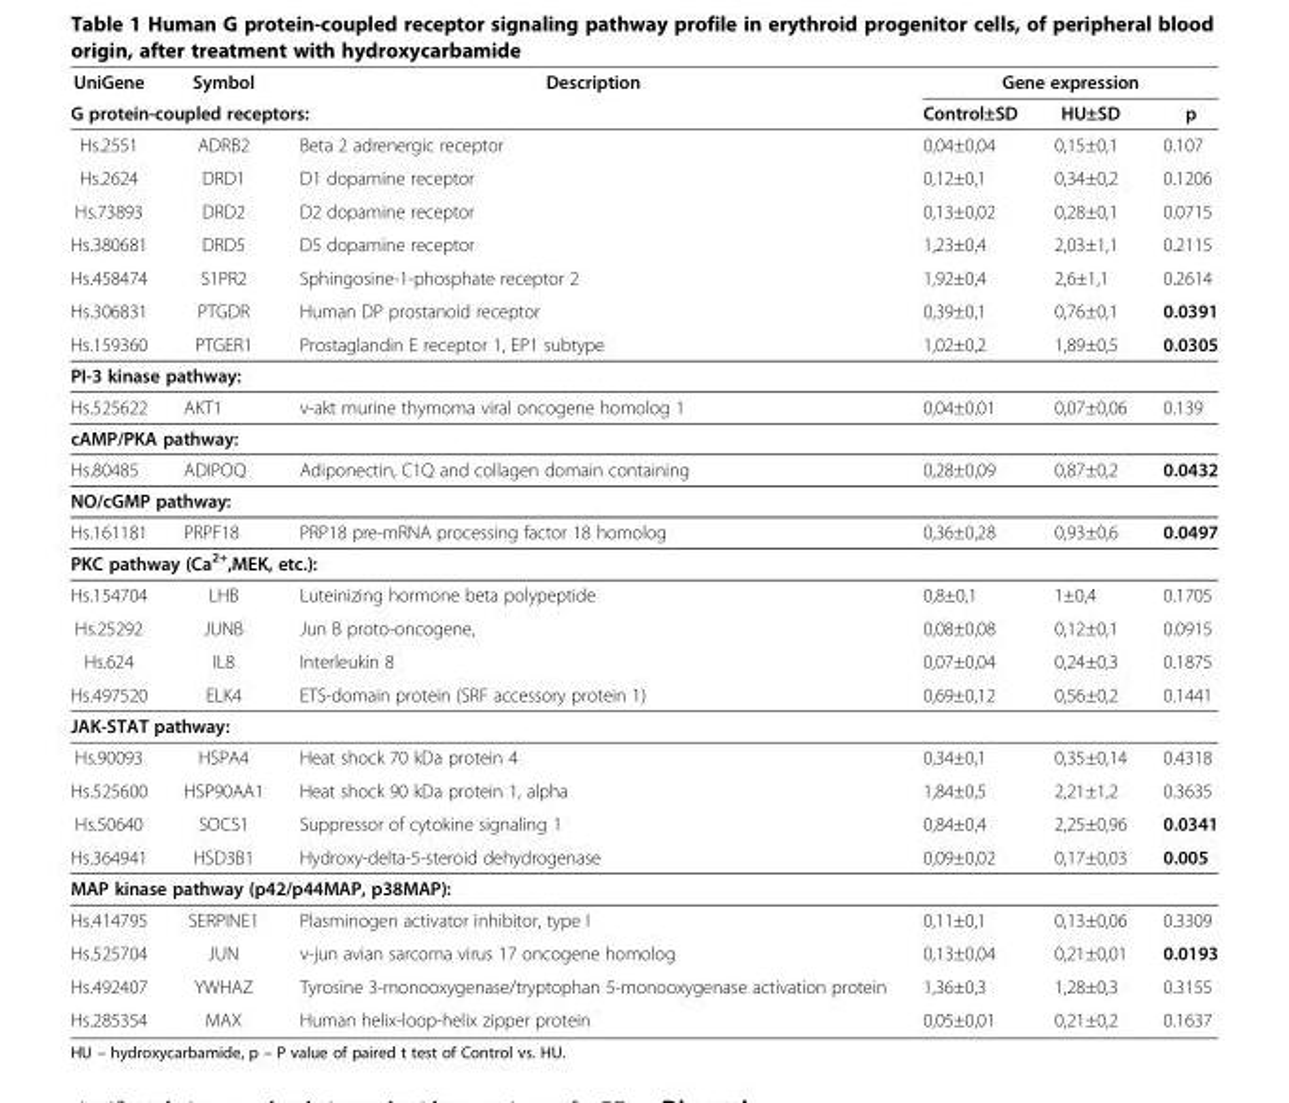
<table><thead><tr><td>UniGene</td><td>Symbol</td><td>Description</td><td colspan="3">Gene expression</td></tr><tr><td colspan="3">G protein-coupled receptors:</td><td>Control±SD</td><td>HU±SD</td><td>p</td></tr></thead><tbody><tr><td>Hs.2551</td><td>ADRB2</td><td>Beta 2 adrenergic receptor</td><td>0,04±0,04</td><td>0,15±0,1</td><td>0.107</td></tr><tr><td>Hs.2624</td><td>DRD1</td><td>D1 dopamine receptor</td><td>0,12±0,1</td><td>0,34±0,2</td><td>0.1206</td></tr><tr><td>Hs.73893</td><td>DRD2</td><td>D2 dopamine receptor</td><td>0,13±0,02</td><td>0,28±0,1</td><td>0.0715</td></tr><tr><td>Hs.380681</td><td>DRD5</td><td>D5 dopamine receptor</td><td>1,23±0,4</td><td>2,03±1,1</td><td>0.2115</td></tr><tr><td>Hs.458474</td><td>S1PR2</td><td>Sphingosine-1-phosphate receptor 2</td><td>1,92±0,4</td><td>2,6±1,1</td><td>0.2614</td></tr><tr><td>Hs.306831</td><td>PTGDR</td><td>Human DP prostanoid receptor</td><td>0,39±0,1</td><td>0,76±0,1</td><td>0.0391</td></tr><tr><td>Hs.159360</td><td>PTGER1</td><td>Prostaglandin E receptor 1, EP1 subtype</td><td>1,02±0,2</td><td>1,89±0,5</td><td>0.0305</td></tr><tr><td colspan="6">PI-3 kinase pathway:</td></tr><tr><td>Hs.525622</td><td>AKT1</td><td>v-akt murine thymoma viral oncogene homolog 1</td><td>0,04±0,01</td><td>0,07±0,06</td><td>0.139</td></tr><tr><td colspan="6">cAMP/PKA pathway:</td></tr><tr><td>Hs.80485</td><td>ADIPOQ</td><td>Adiponectin, C1Q and collagen domain containing</td><td>0,28±0,09</td><td>0,87±0,2</td><td>0.0432</td></tr><tr><td colspan="6">NO/cGMP pathway:</td></tr><tr><td>Hs.161181</td><td>PRPF18</td><td>PRP18 pre-mRNA processing factor 18 homolog</td><td>0,36±0,28</td><td>0,93±0,6</td><td>0.0497</td></tr><tr><td colspan="6">PKC pathway (Ca<sup>2+</sup>,MEK, etc.):</td></tr><tr><td>Hs.154704</td><td>LHB</td><td>Luteinizing hormone beta polypeptide</td><td>0,8±0,1</td><td>1±0,4</td><td>0.1705</td></tr><tr><td>Hs.25292</td><td>JUNB</td><td>Jun B proto-oncogene,</td><td>0,08±0,08</td><td>0,12±0,1</td><td>0.0915</td></tr><tr><td>Hs.624</td><td>IL8</td><td>Interleukin 8</td><td>0,07±0,04</td><td>0,24±0,3</td><td>0.1875</td></tr><tr><td>Hs.497520</td><td>ELK4</td><td>ETS-domain protein (SRF accessory protein 1)</td><td>0,69±0,12</td><td>0,56±0,2</td><td>0.1441</td></tr><tr><td colspan="6">JAK-STAT pathway:</td></tr><tr><td>Hs.90093</td><td>HSPA4</td><td>Heat shock 70 kDa protein 4</td><td>0,34±0,1</td><td>0,35±0,14</td><td>0.4318</td></tr><tr><td>Hs.525600</td><td>HSP90AA1</td><td>Heat shock 90 kDa protein 1, alpha</td><td>1,84±0,5</td><td>2,21±1,2</td><td>0.3635</td></tr><tr><td>Hs.50640</td><td>SOCS1</td><td>Suppressor of cytokine signaling 1</td><td>0,84±0,4</td><td>2,25±0,96</td><td>0.0341</td></tr><tr><td>Hs.364941</td><td>HSD3B1</td><td>Hydroxy-delta-5-steroid dehydrogenase</td><td>0,09±0,02</td><td>0,17±0,03</td><td>0.005</td></tr><tr><td colspan="6">MAP kinase pathway (p42/p44MAP, p38MAP):</td></tr><tr><td>Hs.414795</td><td>SERPINE1</td><td>Plasminogen activator inhibitor, type I</td><td>0,11±0,1</td><td>0,13±0,06</td><td>0.3309</td></tr><tr><td>Hs.525704</td><td>JUN</td><td>v-jun avian sarcoma virus 17 oncogene homolog</td><td>0,13±0,04</td><td>0,21±0,01</td><td>0.0193</td></tr><tr><td>Hs.492407</td><td>YWHAZ</td><td>Tyrosine 3-monooxygenase/tryptophan 5-monooxygenase activation protein</td><td>1,36±0,3</td><td>1,28±0,3</td><td>0.3155</td></tr><tr><td>Hs.285354</td><td>MAX</td><td>Human helix-loop-helix zipper protein</td><td>0,05±0,01</td><td>0,21±0,2</td><td>0.1637</td></tr></tbody></table>